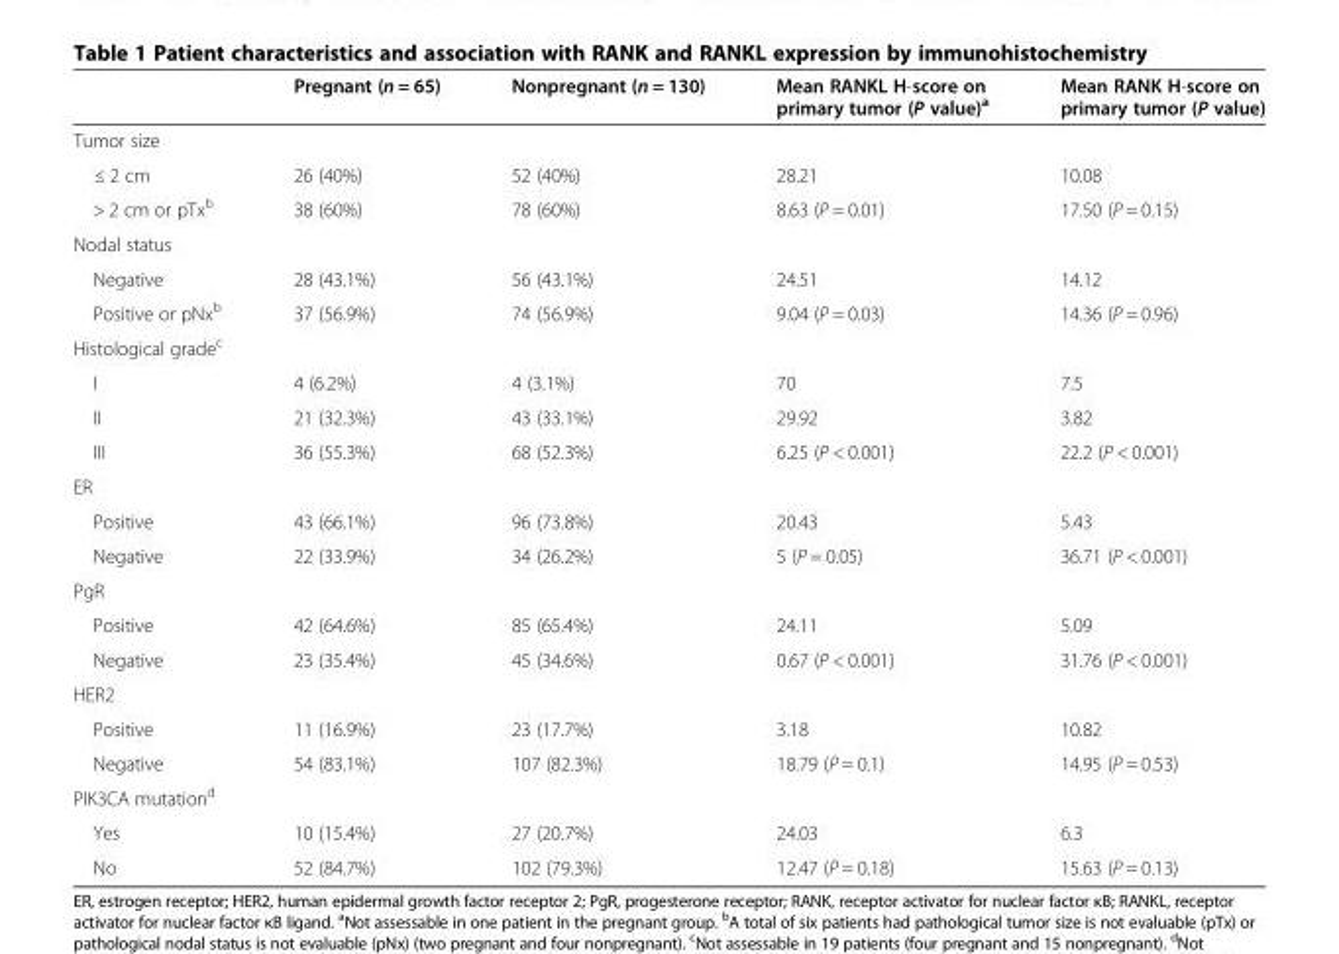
<table><thead><tr><td></td><td>Pregnant (n = 65)</td><td>Nonpregnant (n = 130)</td><td>Mean RANKL H-score on primary tumor (P value)<sup>a</sup></td><td>Mean RANK H-score on primary tumor (P value)</td></tr></thead><tbody><tr><td colspan="5">Tumor size</td></tr><tr><td>≤ 2 cm</td><td>26 (40%)</td><td>52 (40%)</td><td>28.21</td><td>10.08</td></tr><tr><td>&gt; 2 cm or pTx<sup>b</sup></td><td>38 (60%)</td><td>78 (60%)</td><td>8.63 (P = 0.01)</td><td>17.50 (P = 0.15)</td></tr><tr><td colspan="5">Nodal status</td></tr><tr><td>Negative</td><td>28 (43.1%)</td><td>56 (43.1%)</td><td>24.51</td><td>14.12</td></tr><tr><td>Positive or pNx<sup>b</sup></td><td>37 (56.9%)</td><td>74 (56.9%)</td><td>9.04 (P = 0.03)</td><td>14.36 (P = 0.96)</td></tr><tr><td colspan="5">Histological grade<sup>c</sup></td></tr><tr><td>I</td><td>4 (6.2%)</td><td>4 (3.1%)</td><td>70</td><td>7.5</td></tr><tr><td>II</td><td>21 (32.3%)</td><td>43 (33.1%)</td><td>29.92</td><td>3.82</td></tr><tr><td>III</td><td>36 (55.3%)</td><td>68 (52.3%)</td><td>6.25 (P &lt; 0.001)</td><td>22.2 (P &lt; 0.001)</td></tr><tr><td colspan="5">ER</td></tr><tr><td>Positive</td><td>43 (66.1%)</td><td>96 (73.8%)</td><td>20.43</td><td>5.43</td></tr><tr><td>Negative</td><td>22 (33.9%)</td><td>34 (26.2%)</td><td>5 (P = 0.05)</td><td>36.71 (P &lt; 0.001)</td></tr><tr><td colspan="5">PgR</td></tr><tr><td>Positive</td><td>42 (64.6%)</td><td>85 (65.4%)</td><td>24.11</td><td>5.09</td></tr><tr><td>Negative</td><td>23 (35.4%)</td><td>45 (34.6%)</td><td>0.67 (P &lt; 0.001)</td><td>31.76 (P &lt; 0.001)</td></tr><tr><td colspan="5">HER2</td></tr><tr><td>Positive</td><td>11 (16.9%)</td><td>23 (17.7%)</td><td>3.18</td><td>10.82</td></tr><tr><td>Negative</td><td>54 (83.1%)</td><td>107 (82.3%)</td><td>18.79 (P = 0.1)</td><td>14.95 (P = 0.53)</td></tr><tr><td colspan="5">PIK3CA mutation<sup>d</sup></td></tr><tr><td>Yes</td><td>10 (15.4%)</td><td>27 (20.7%)</td><td>24.03</td><td>6.3</td></tr><tr><td>No</td><td>52 (84.7%)</td><td>102 (79.3%)</td><td>12.47 (P = 0.18)</td><td>15.63 (P = 0.13)</td></tr></tbody></table>